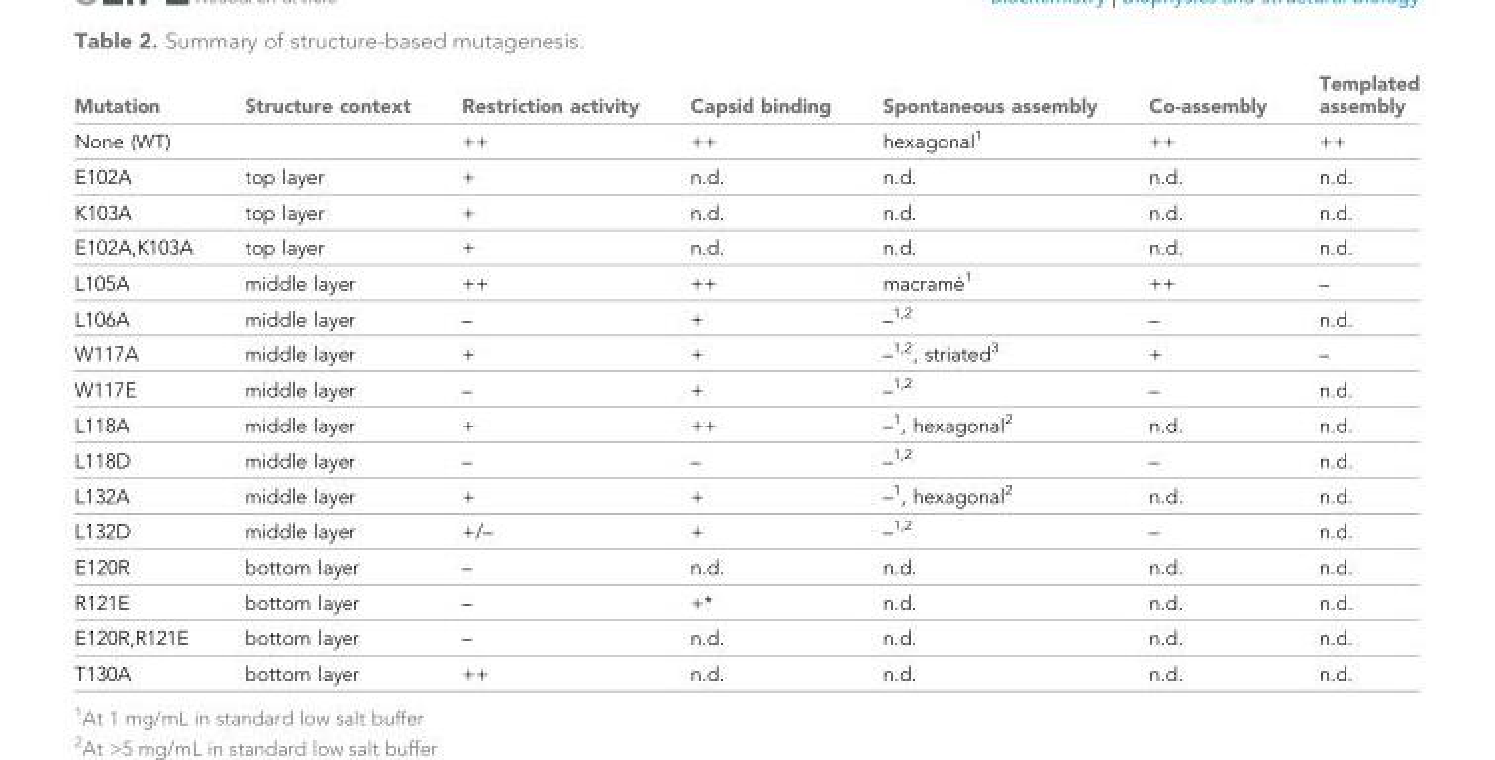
<table><thead><tr><td>Mutation</td><td>Structure context</td><td>Restriction activity</td><td>Capsid binding</td><td>Spontaneous assembly</td><td>Co-assembly</td><td>Templated assembly</td></tr></thead><tbody><tr><td>None (WT)</td><td></td><td>++</td><td>++</td><td>hexagonal<sup>1</sup></td><td>++</td><td>++</td></tr><tr><td>E102A</td><td>top layer</td><td>+</td><td>n.d.</td><td>n.d.</td><td>n.d.</td><td>n.d.</td></tr><tr><td>K103A</td><td>top layer</td><td>+</td><td>n.d.</td><td>n.d.</td><td>n.d.</td><td>n.d.</td></tr><tr><td>E102A,K103A</td><td>top layer</td><td>+</td><td>n.d.</td><td>n.d.</td><td>n.d.</td><td>n.d.</td></tr><tr><td>L105A</td><td>middle layer</td><td>++</td><td>++</td><td>macrame´ 1</td><td>++</td><td>–</td></tr><tr><td>L106A</td><td>middle layer</td><td>–</td><td>+</td><td>–<sup>1,2</sup></td><td>–</td><td>n.d.</td></tr><tr><td>W117A</td><td>middle layer</td><td>+</td><td>+</td><td>–<sup>1,2</sup>, striated<sup>3</sup></td><td>+</td><td>–</td></tr><tr><td>W117E</td><td>middle layer</td><td>–</td><td>+</td><td>–<sup>1,2</sup></td><td>–</td><td>n.d.</td></tr><tr><td>L118A</td><td>middle layer</td><td>+</td><td>++</td><td>–<sup>1</sup>, hexagonal<sup>2</sup></td><td>n.d.</td><td>n.d.</td></tr><tr><td>L118D</td><td>middle layer</td><td>–</td><td>–</td><td>–<sup>1,2</sup></td><td>–</td><td>n.d.</td></tr><tr><td>L132A</td><td>middle layer</td><td>+</td><td>+</td><td>–<sup>1</sup>, hexagonal<sup>2</sup></td><td>n.d.</td><td>n.d.</td></tr><tr><td>L132D</td><td>middle layer</td><td>+/–</td><td>+</td><td>–<sup>1,2</sup></td><td>–</td><td>n.d.</td></tr><tr><td>E120R</td><td>bottom layer</td><td>–</td><td>n.d.</td><td>n.d.</td><td>n.d.</td><td>n.d.</td></tr><tr><td>R121E</td><td>bottom layer</td><td>–</td><td>+*</td><td>n.d.</td><td>n.d.</td><td>n.d.</td></tr><tr><td>E120R,R121E</td><td>bottom layer</td><td>–</td><td>n.d.</td><td>n.d.</td><td>n.d.</td><td>n.d.</td></tr><tr><td>T130A</td><td>bottom layer</td><td>++</td><td>n.d.</td><td>n.d.</td><td>n.d.</td><td>n.d.</td></tr></tbody></table>